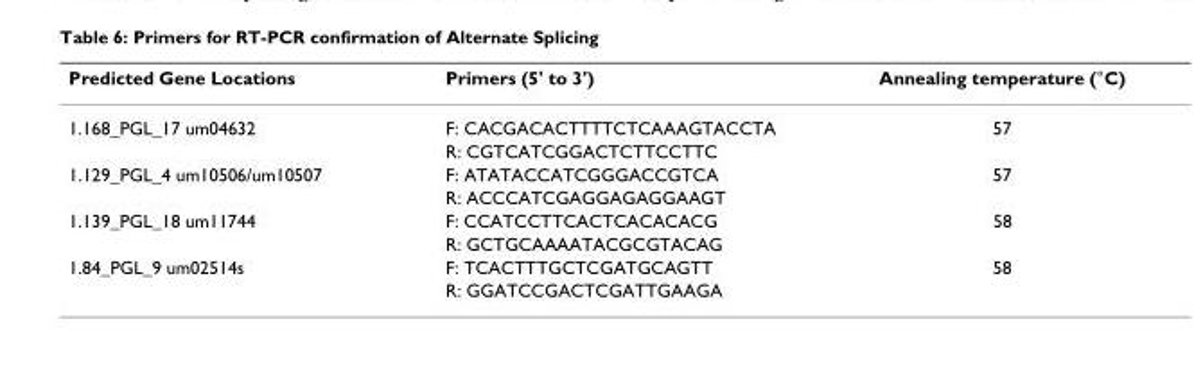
<table><thead><tr><td>Predicted Gene Locations</td><td>Primers (5&#x27; to 3&#x27;)</td><td>Annealing temperature (°C)</td></tr></thead><tbody><tr><td rowspan="2">1.168_PGL_17 um04632</td><td>F: CACGACACTTTTCTCAAAGTACCTA</td><td>57</td></tr><tr><td>R: CGTCATCGGACTCTTCCTTC</td><td></td></tr><tr><td rowspan="2">1.129_PGL_4 um10506/um10507</td><td>F: ATATACCATCGGGACCGTCA</td><td>57</td></tr><tr><td>R: ACCCATCGAGGAGAGGAAGT</td><td></td></tr><tr><td rowspan="2">1.139_PGL_18 um11744</td><td>F: CCATCCTTCACTCACACACG</td><td>58</td></tr><tr><td>R: GCTGCAAAATACGCGTACAG</td><td></td></tr><tr><td rowspan="2">1.84_PGL_9 um02514s</td><td>F: TCACTTTGCTCGATGCAGTT</td><td>58</td></tr><tr><td>R: GGATCCGACTCGATTGAAGA</td><td></td></tr></tbody></table>